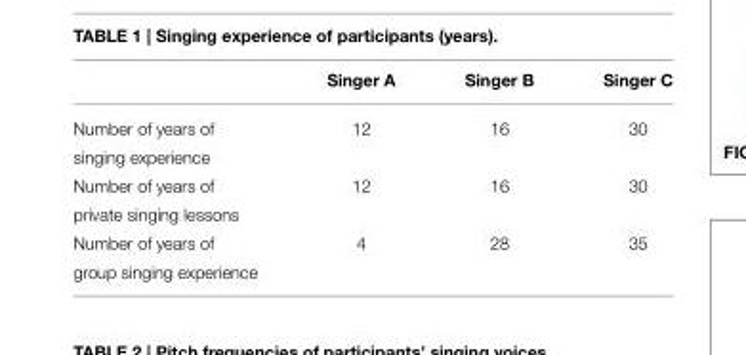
<table><thead><tr><td></td><td>Singer A</td><td>Singer B</td><td>Singer C</td></tr></thead><tbody><tr><td>Number of years of</td><td>12</td><td>16</td><td>30</td></tr><tr><td colspan="4">singing experience</td></tr><tr><td>Number of years of</td><td>12</td><td>16</td><td>30</td></tr><tr><td colspan="4">private singing lessons</td></tr><tr><td>Number of years of</td><td>4</td><td>28</td><td>35</td></tr><tr><td>group singing experience</td><td></td><td></td><td></td></tr></tbody></table>